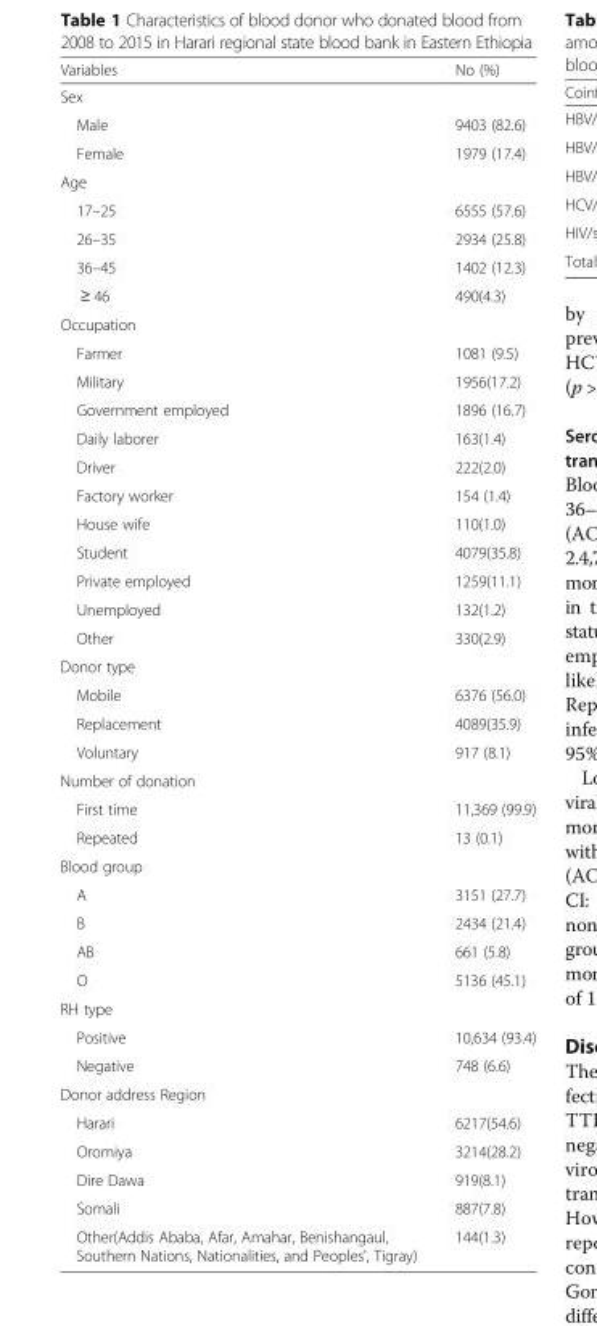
<table><thead><tr><td>Variables</td><td>No (%)</td></tr></thead><tbody><tr><td colspan="2">Sex</td></tr><tr><td>Male</td><td>9403 (82.6)</td></tr><tr><td>Female</td><td>1979 (17.4)</td></tr><tr><td colspan="2">Age</td></tr><tr><td>17–25</td><td>6555 (57.6)</td></tr><tr><td>26–35</td><td>2934 (25.8)</td></tr><tr><td>36–45</td><td>1402 (12.3)</td></tr><tr><td>≥ 46</td><td>490(4.3)</td></tr><tr><td colspan="2">Occupation</td></tr><tr><td>Farmer</td><td>1081 (9.5)</td></tr><tr><td>Military</td><td>1956(17.2)</td></tr><tr><td>Government employed</td><td>1896 (16.7)</td></tr><tr><td>Daily laborer</td><td>163(1.4)</td></tr><tr><td>Driver</td><td>222(2.0)</td></tr><tr><td>Factory worker</td><td>154 (1.4)</td></tr><tr><td>House wife</td><td>110(1.0)</td></tr><tr><td>Student</td><td>4079(35.8)</td></tr><tr><td>Private employed</td><td>1259(11.1)</td></tr><tr><td>Unemployed</td><td>132(1.2)</td></tr><tr><td>Other</td><td>330(2.9)</td></tr><tr><td colspan="2">Donor type</td></tr><tr><td>Mobile</td><td>6376 (56.0)</td></tr><tr><td>Replacement</td><td>4089(35.9)</td></tr><tr><td>Voluntary</td><td>917 (8.1)</td></tr><tr><td colspan="2">Number of donation</td></tr><tr><td>First time</td><td>11,369 (99.9)</td></tr><tr><td>Repeated</td><td>13 (0.1)</td></tr><tr><td colspan="2">Blood group</td></tr><tr><td>A</td><td>3151 (27.7)</td></tr><tr><td>B</td><td>2434 (21.4)</td></tr><tr><td>AB</td><td>661 (5.8)</td></tr><tr><td>O</td><td>5136 (45.1)</td></tr><tr><td colspan="2">RH type</td></tr><tr><td>Positive</td><td>10,634 (93.4)</td></tr><tr><td>Negative</td><td>748 (6.6)</td></tr><tr><td colspan="2">Donor address Region</td></tr><tr><td>Harari</td><td>6217(54.6)</td></tr><tr><td>Oromiya</td><td>3214(28.2)</td></tr><tr><td>Dire Dawa</td><td>919(8.1)</td></tr><tr><td>Somali</td><td>887(7.8)</td></tr><tr><td>Other(Addis Ababa, Afar, Amahar, Benishangaul, Southern Nations, Nationalities, and Peoples&#x27;, Tigray)</td><td>144(1.3)</td></tr></tbody></table>